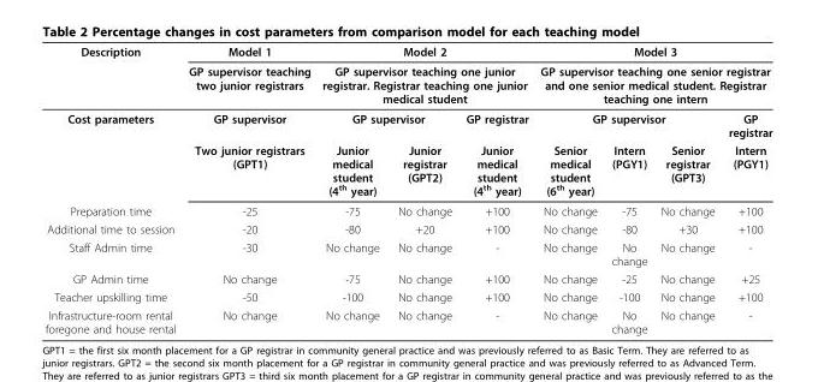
<table><thead><tr><td rowspan="4">Description Cost parameters</td><td rowspan="4">Model 1 GP supervisor teaching two junior registrars GP supervisor Two junior registrars (GPT1)</td><td rowspan="2" colspan="3">Model 2 GP supervisor teaching one junior registrar. Registrar teaching one junior medical student</td><td rowspan="2" colspan="4">Model 3 GP supervisor teaching one senior registrar and one senior medical student. Registrar teaching one intern</td></tr><tr></tr><tr><td colspan="2">GP supervisor</td><td rowspan="2">GP registrar Junior medical student (4<sup>th</sup> year)</td><td colspan="3">GP supervisor</td><td rowspan="2">GP registrar Intern (PGY1)</td></tr><tr><td>Junior medical student (4<sup>th</sup> year)</td><td>Junior registrar (GPT2)</td><td>Senior medical student (6<sup>th</sup> year)</td><td>Intern (PGY1)</td><td>Senior registrar (GPT3)</td></tr></thead><tbody><tr><td>Preparation time</td><td>-25</td><td>-75</td><td>No change</td><td>+100</td><td>No change</td><td>-75</td><td>No change</td><td>+100</td></tr><tr><td>Additional time to session</td><td>-20</td><td>-80</td><td>+20</td><td>+100</td><td>No change</td><td>-80</td><td>+30</td><td>+100</td></tr><tr><td>Staff Admin time</td><td>-30</td><td>No change</td><td>No change</td><td>-</td><td>No change</td><td>No change</td><td>No change</td><td>-</td></tr><tr><td>GP Admin time</td><td>No change</td><td>-75</td><td>No change</td><td>+100</td><td>No change</td><td>-25</td><td>No change</td><td>+25</td></tr><tr><td>Teacher upskilling time</td><td>-50</td><td>-100</td><td>No change</td><td>+100</td><td>No change</td><td>-100</td><td>No change</td><td>+100</td></tr><tr><td>Infrastructure-room rental foregone and house rental</td><td>No change</td><td>No change</td><td>No change</td><td>-</td><td>No change</td><td>No change</td><td>No change</td><td>-</td></tr></tbody></table>